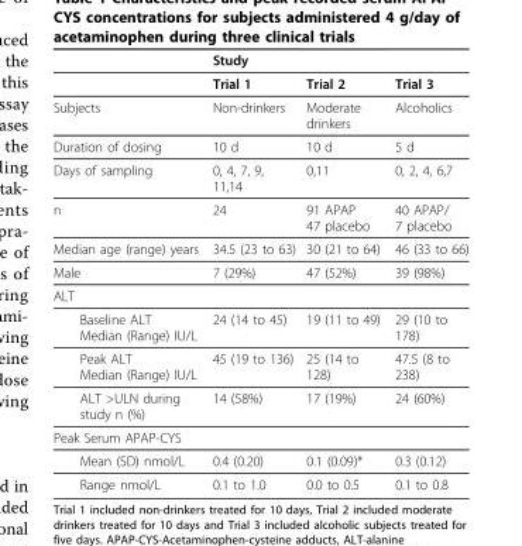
<table><thead><tr><td rowspan="2"></td><td colspan="3">Study</td></tr><tr><td>Trial 1</td><td>Trial 2</td><td>Trial 3</td></tr></thead><tbody><tr><td>Subjects</td><td>Non-drinkers</td><td>Moderate drinkers</td><td>Alcoholics</td></tr><tr><td>Duration of dosing</td><td>10 d</td><td>10 d</td><td>5 d</td></tr><tr><td>Days of sampling</td><td>0, 4, 7, 9, 11,14</td><td>0,11</td><td>0, 2, 4, 6,7</td></tr><tr><td>n</td><td>24</td><td>91 APAP 47 placebo</td><td>40 APAP/ 7 placebo</td></tr><tr><td>Median age (range) years</td><td>34.5 (23 to 63)</td><td>30 (21 to 64)</td><td>46 (33 to 66)</td></tr><tr><td>Male</td><td>7 (29%)</td><td>47 (52%)</td><td>39 (98%)</td></tr><tr><td colspan="4">ALT</td></tr><tr><td>Baseline ALT Median (Range) IU/L</td><td>24 (14 to 45)</td><td>19 (11 to 49)</td><td>29 (10 to 178)</td></tr><tr><td>Peak ALT Median (Range) IU/L</td><td>45 (19 to 136)</td><td>25 (14 to 128)</td><td>47.5 (8 to 238)</td></tr><tr><td>ALT &gt;ULN during study n (%)</td><td>14 (58%)</td><td>17 (19%)</td><td>24 (60%)</td></tr><tr><td colspan="4">Peak Serum APAP-CYS</td></tr><tr><td>Mean (SD) nmol/L</td><td>0.4 (0.20)</td><td>0.1 (0.09)*</td><td>0.3 (0.12)</td></tr><tr><td>Range nmol/L</td><td>0.1 to 1.0</td><td>0.0 to 0.5</td><td>0.1 to 0.8</td></tr></tbody></table>